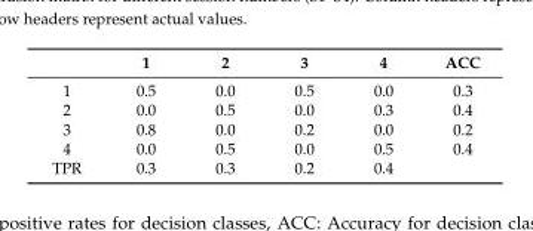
<table><thead><tr><td></td><td>1</td><td>2</td><td>3</td><td>4</td><td>ACC</td></tr></thead><tbody><tr><td>1</td><td>0.5</td><td>0.0</td><td>0.5</td><td>0.0</td><td>0.3</td></tr><tr><td>2</td><td>0.0</td><td>0.5</td><td>0.0</td><td>0.3</td><td>0.4</td></tr><tr><td>3</td><td>0.8</td><td>0.0</td><td>0.2</td><td>0.0</td><td>0.2</td></tr><tr><td>4</td><td>0.0</td><td>0.5</td><td>0.0</td><td>0.5</td><td>0.4</td></tr><tr><td>TPR</td><td>0.3</td><td>0.3</td><td>0.2</td><td>0.4</td><td></td></tr></tbody></table>